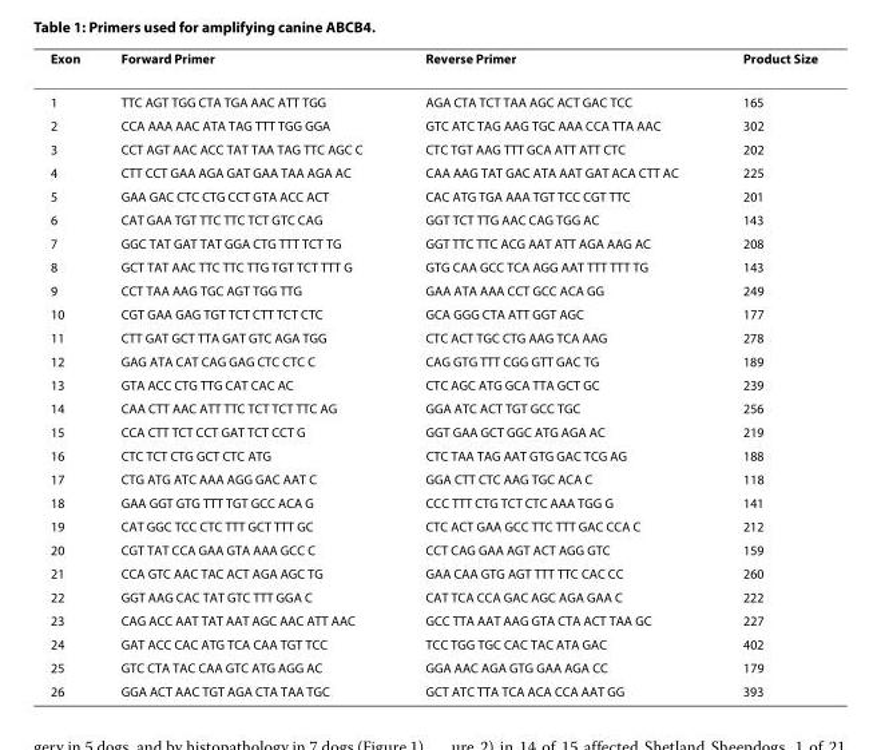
<table><thead><tr><td>Exon</td><td>Forward Primer</td><td>Reverse Primer</td><td>Product Size</td></tr></thead><tbody><tr><td>1</td><td>TTC AGT TGG CTA TGA AAC ATT TGG</td><td>AGA CTA TCT TAA AGC ACT GAC TCC</td><td>165</td></tr><tr><td>2</td><td>CCA AAA AAC ATA TAG TTT TGG GGA</td><td>GTC ATC TAG AAG TGC AAA CCA TTA AAC</td><td>302</td></tr><tr><td>3</td><td>CCT AGT AAC ACC TAT TAA TAG TTC AGC C</td><td>CTC TGT AAG TTT GCA ATT ATT CTC</td><td>202</td></tr><tr><td>4</td><td>CTT CCT GAA AGA GAT GAA TAA AGA AC</td><td>CAA AAG TAT GAC ATA AAT GAT ACA CTT AC</td><td>225</td></tr><tr><td>5</td><td>GAA GAC CTC CTG CCT GTA ACC ACT</td><td>CAC ATG TGA AAA TGT TCC CGT TTC</td><td>201</td></tr><tr><td>6</td><td>CAT GAA TGT TTC TTC TCT GTC CAG</td><td>GGT TCT TTG AAC CAG TGG AC</td><td>143</td></tr><tr><td>7</td><td>GGC TAT GAT TAT GGA CTG TTT TCT TG</td><td>GGT TTC TTC ACG AAT ATT AGA AAG AC</td><td>208</td></tr><tr><td>8</td><td>GCT TAT AAC TTC TTC TTG TGT TCT TTT G</td><td>GTG CAA GCC TCA AGG AAT TTT TTT TG</td><td>143</td></tr><tr><td>9</td><td>CCT TAA AAG TGC AGT TGG TTG</td><td>GAA ATA AAA CCT GCC ACA GG</td><td>249</td></tr><tr><td>10</td><td>CGT GAA GAG TGT TCT CTT TCT CTC</td><td>GCA GGG CTA ATT GGT AGC</td><td>177</td></tr><tr><td>11</td><td>CTT GAT GCT TTA GAT GTC AGA TGG</td><td>CTC ACT TGC CTG AAG TCA AAG</td><td>278</td></tr><tr><td>12</td><td>GAG ATA CAT CAG GAG CTC CTC C</td><td>CAG GTG TTT CGG GTT GAC TG</td><td>189</td></tr><tr><td>13</td><td>GTA ACC CTG TTG CAT CAC AC</td><td>CTC AGC ATG GCA TTA GCT GC</td><td>239</td></tr><tr><td>14</td><td>CAA CTT AAC ATT TTC TCT TCT TTC AG</td><td>GGA ATC ACT TGT GCC TGC</td><td>256</td></tr><tr><td>15</td><td>CCA CTT TCT CCT GAT TCT CCT G</td><td>GGT GAA GCT GGC ATG AGA AC</td><td>219</td></tr><tr><td>16</td><td>CTC TCT CTG GCT CTC ATG</td><td>CTC TAA TAG AAT GTG GAC TCG AG</td><td>188</td></tr><tr><td>17</td><td>CTG ATG ATC AAA AGG GAC AAT C</td><td>GGA CTT CTC AAG TGC ACA C</td><td>118</td></tr><tr><td>18</td><td>GAA GGT GTG TTT TGT GCC ACA G</td><td>CCC TTT CTG TCT CTC AAA TGG G</td><td>141</td></tr><tr><td>19</td><td>CAT GGC TCC CTC TTT GCT TTT GC</td><td>CTC ACT GAA GCC TTC TTT GAC CCA C</td><td>212</td></tr><tr><td>20</td><td>CGT TAT CCA GAA GTA AAA GCC C</td><td>CCT CAG GAA AGT ACT AGG GTC</td><td>159</td></tr><tr><td>21</td><td>CCA GTC AAC TAC ACT AGA AGC TG</td><td>GAA CAA GTG AGT TTT TTC CAC CC</td><td>260</td></tr><tr><td>22</td><td>GGT AAG CAC TAT GTC TTT GGA C</td><td>CAT TCA CCA GAC AGC AGA GAA C</td><td>222</td></tr><tr><td>23</td><td>CAG ACC AAT TAT AAT AGC AAC ATT AAC</td><td>GCC TTA AAT AAG GTA CTA ACT TAA GC</td><td>227</td></tr><tr><td>24</td><td>GAT ACC CAC ATG TCA CAA TGT TCC</td><td>TCC TGG TGC CAC TAC ATA GAC</td><td>402</td></tr><tr><td>25</td><td>GTC CTA TAC CAA GTC ATG AGG AC</td><td>GGA AAC AGA GTG GAA AGA CC</td><td>179</td></tr><tr><td>26</td><td>GGA ACT AAC TGT AGA CTA TAA TGC</td><td>GCT ATC TTA TCA ACA CCA AAT GG</td><td>393</td></tr></tbody></table>